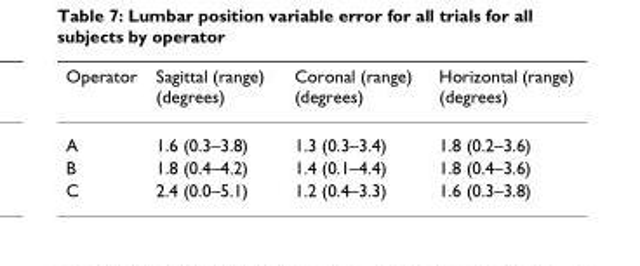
<table><thead><tr><td>Operator</td><td>Sagittal (range) (degrees)</td><td>Coronal (range) (degrees)</td><td>Horizontal (range) (degrees)</td></tr></thead><tbody><tr><td>A</td><td>1.6 (0.3–3.8)</td><td>1.3 (0.3–3.4)</td><td>1.8 (0.2–3.6)</td></tr><tr><td>B</td><td>1.8 (0.4–4.2)</td><td>1.4 (0.1–4.4)</td><td>1.8 (0.4–3.6)</td></tr><tr><td>C</td><td>2.4 (0.0–5.1)</td><td>1.2 (0.4–3.3)</td><td>1.6 (0.3–3.8)</td></tr></tbody></table>